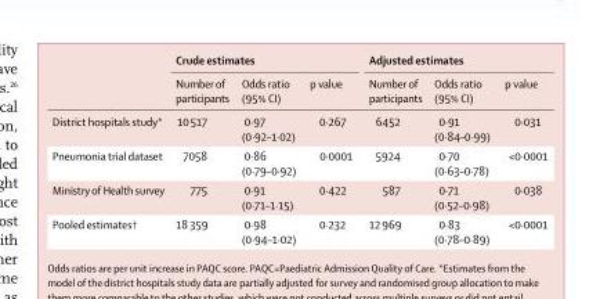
<table><thead><tr><td rowspan="2"></td><td colspan="3">Crude estimates</td><td colspan="3">Adjusted estimates</td></tr><tr><td>Number of participants</td><td>Odds ratio (95% CI)</td><td>p value</td><td>Number of participants</td><td>Odds ratio (95% CI)</td><td>p value</td></tr></thead><tbody><tr><td>District hospitals study*</td><td>10 517</td><td>0·97 (0·92–1·02)</td><td>0·267</td><td>6452</td><td>0·91 (0·84–0·99)</td><td>0·031</td></tr><tr><td>Pneumonia trial dataset</td><td>7058</td><td>0·86 (0·79–0·92)</td><td>0·0001</td><td>5924</td><td>0·70 (0·63–0·78)</td><td>&lt;0·0001</td></tr><tr><td>Ministry of Health survey</td><td>775</td><td>0·91 (0·71–1·15)</td><td>0·422</td><td>587</td><td>0·71 (0·52–0·98)</td><td>0·038</td></tr><tr><td>Pooled estimates†</td><td>18 359</td><td>0·98 (0·94–1·02)</td><td>0·232</td><td>12 969</td><td>0·83 (0·78–0·89)</td><td>&lt;0·0001</td></tr></tbody></table>